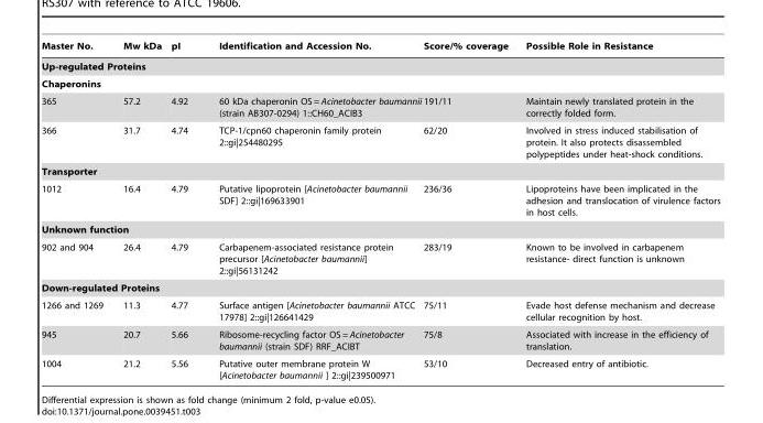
<table><thead><tr><td>Master No.</td><td>Mw kDa</td><td>pI</td><td>Identification and Accession No.</td><td>Score/% coverage</td><td>Possible Role in Resistance</td></tr></thead><tbody><tr><td colspan="6">Up-regulated Proteins</td></tr><tr><td colspan="6">Chaperonins</td></tr><tr><td>365</td><td>57.2</td><td>4.92</td><td>60 kDa chaperonin OS = Acinetobacter baumannii (strain AB307-0294) 1::CH60_ACIB3</td><td>191/11</td><td>Maintain newly translated protein in the correctly folded form.</td></tr><tr><td>366</td><td>31.7</td><td>4.74</td><td>TCP-1/cpn60 chaperonin family protein 2::gi|254480295</td><td>62/20</td><td>Involved in stress induced stabilisation of protein. It also protects disassembled polypeptides under heat-shock conditions.</td></tr><tr><td colspan="6">Transporter</td></tr><tr><td>1012</td><td>16.4</td><td>4.79</td><td>Putative lipoprotein [Acinetobacter baumannii SDF] 2::gi|169633901</td><td>236/36</td><td>Lipoproteins have been implicated in the adhesion and translocation of virulence factors in host cells.</td></tr><tr><td colspan="6">Unknown function</td></tr><tr><td>902 and 904</td><td>26.4</td><td>4.79</td><td>Carbapenem-associated resistance protein precursor [Acinetobacter baumannii] 2::gi|56131242</td><td>283/19</td><td>Known to be involved in carbapenem resistance- direct function is unknown</td></tr><tr><td colspan="6">Down-regulated Proteins</td></tr><tr><td>1266 and 1269</td><td>11.3</td><td>4.77</td><td>Surface antigen [Acinetobacter baumannii ATCC 17978] 2::gi|126641429</td><td>75/11</td><td>Evade host defense mechanism and decrease cellular recognition by host.</td></tr><tr><td>945</td><td>20.7</td><td>5.66</td><td>Ribosome-recycling factor OS = Acinetobacter baumannii (strain SDF) RRF_ACIBT</td><td>75/8</td><td>Associated with increase in the efficiency of translation.</td></tr><tr><td>1004</td><td>21.2</td><td>5.56</td><td>Putative outer membrane protein W [Acinetobacter baumannii ] 2::gi|239500971</td><td>53/10</td><td>Decreased entry of antibiotic.</td></tr></tbody></table>